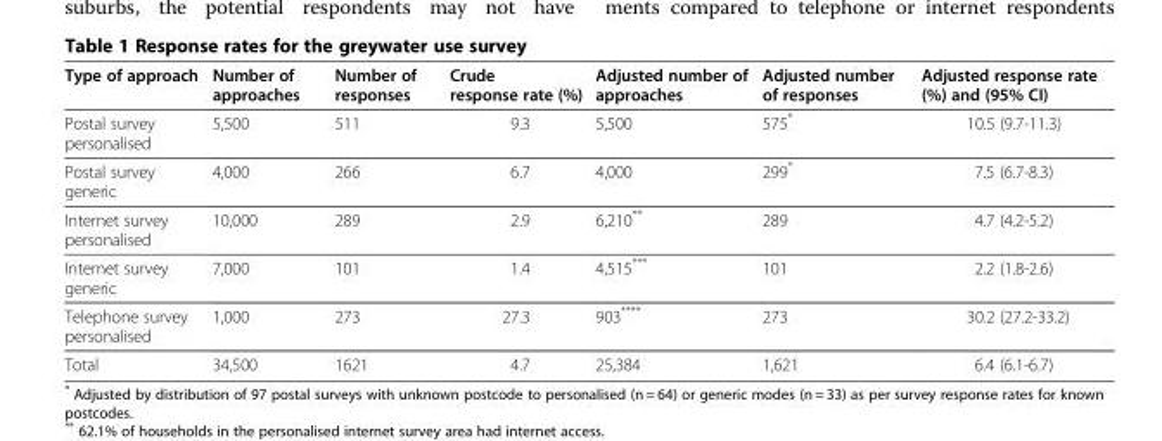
<table><thead><tr><td>Type of approach</td><td>Number of approaches</td><td>Number of responses</td><td>Crude response rate (%)</td><td>Adjusted number of approaches</td><td>Adjusted number of responses</td><td>Adjusted response rate (%) and (95% CI)</td></tr></thead><tbody><tr><td>Postal survey personalised</td><td>5,500</td><td>511</td><td>9.3</td><td>5,500</td><td>575*</td><td>10.5 (9.7-11.3)</td></tr><tr><td>Postal survey generic</td><td>4,000</td><td>266</td><td>6.7</td><td>4,000</td><td>299*</td><td>7.5 (6.7-8.3)</td></tr><tr><td>Internet survey personalised</td><td>10,000</td><td>289</td><td>2.9</td><td>6,210**</td><td>289</td><td>4.7 (4.2-5.2)</td></tr><tr><td>Internet survey generic</td><td>7,000</td><td>101</td><td>1.4</td><td>4,515***</td><td>101</td><td>2.2 (1.8-2.6)</td></tr><tr><td>Telephone survey personalised</td><td>1,000</td><td>273</td><td>27.3</td><td>903****</td><td>273</td><td>30.2 (27.2-33.2)</td></tr><tr><td>Total</td><td>34,500</td><td>1621</td><td>4.7</td><td>25,384</td><td>1,621</td><td>6.4 (6.1-6.7)</td></tr></tbody></table>